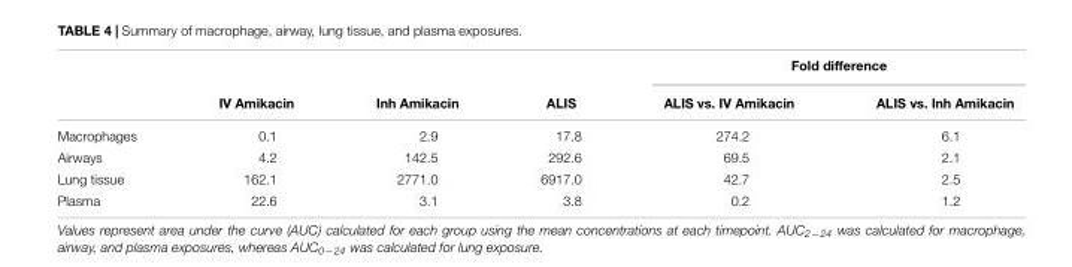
<table><thead><tr><td rowspan="2"></td><td rowspan="2">IV Amikacin</td><td rowspan="2">Inh Amikacin</td><td rowspan="2">ALIS</td><td colspan="2">Fold difference</td></tr><tr><td>ALIS vs. IV Amikacin</td><td>ALIS vs. Inh Amikacin</td></tr></thead><tbody><tr><td>Macrophages</td><td>0.1</td><td>2.9</td><td>17.8</td><td>274.2</td><td>6.1</td></tr><tr><td>Airways</td><td>4.2</td><td>142.5</td><td>292.6</td><td>69.5</td><td>2.1</td></tr><tr><td>Lung tissue</td><td>162.1</td><td>2771.0</td><td>6917.0</td><td>42.7</td><td>2.5</td></tr><tr><td>Plasma</td><td>22.6</td><td>3.1</td><td>3.8</td><td>0.2</td><td>1.2</td></tr></tbody></table>